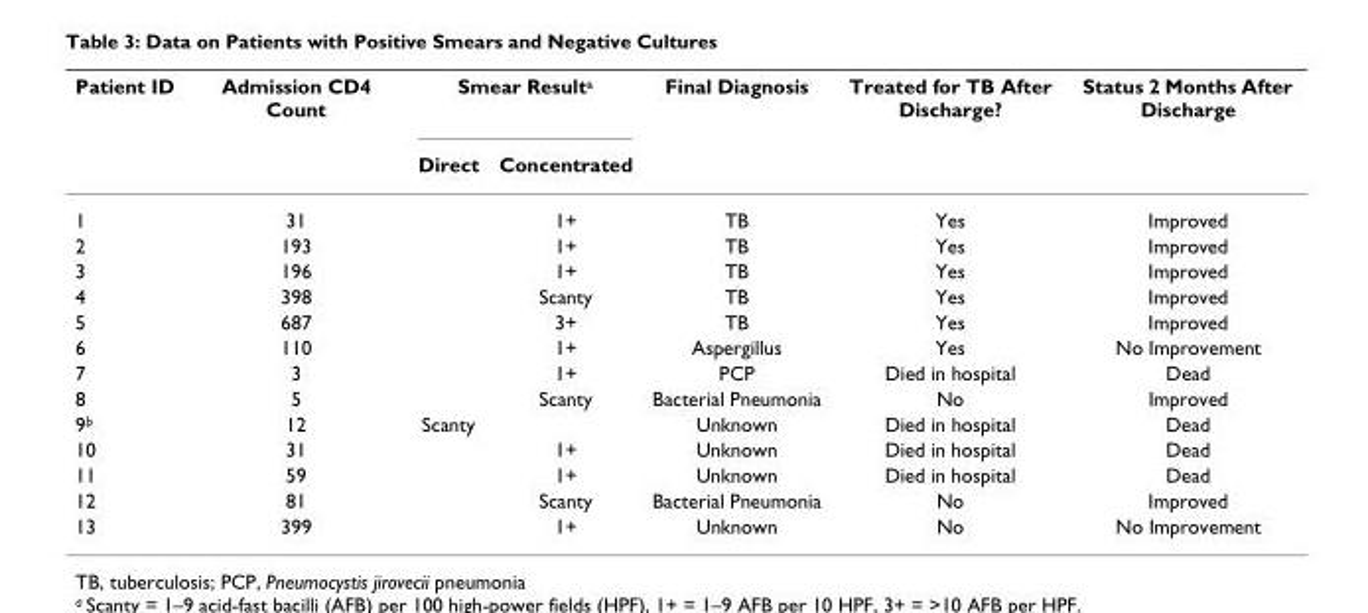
<table><thead><tr><td rowspan="2">Patient ID</td><td rowspan="2">Admission CD4 Count</td><td colspan="2">Smear Result<sup>a</sup></td><td rowspan="2">Final Diagnosis</td><td rowspan="2">Treated for TB After Discharge?</td><td rowspan="2">Status 2 Months After Discharge</td></tr><tr><td>Direct</td><td>Concentrated</td></tr></thead><tbody><tr><td>1</td><td>31</td><td></td><td>1+</td><td>TB</td><td>Yes</td><td>Improved</td></tr><tr><td>2</td><td>193</td><td></td><td>1+</td><td>TB</td><td>Yes</td><td>Improved</td></tr><tr><td>3</td><td>196</td><td></td><td>1+</td><td>TB</td><td>Yes</td><td>Improved</td></tr><tr><td>4</td><td>398</td><td></td><td>Scanty</td><td>TB</td><td>Yes</td><td>Improved</td></tr><tr><td>5</td><td>687</td><td></td><td>3+</td><td>TB</td><td>Yes</td><td>Improved</td></tr><tr><td>6</td><td>110</td><td></td><td>1+</td><td>Aspergillus</td><td>Yes</td><td>No Improvement</td></tr><tr><td>7</td><td>3</td><td></td><td>1+</td><td>PCP</td><td>Died in hospital</td><td>Dead</td></tr><tr><td>8</td><td>5</td><td></td><td>Scanty</td><td>Bacterial Pneumonia</td><td>No</td><td>Improved</td></tr><tr><td>9<sup>b</sup></td><td>12</td><td>Scanty</td><td></td><td>Unknown</td><td>Died in hospital</td><td>Dead</td></tr><tr><td>10</td><td>31</td><td></td><td>1+</td><td>Unknown</td><td>Died in hospital</td><td>Dead</td></tr><tr><td>11</td><td>59</td><td></td><td>1+</td><td>Unknown</td><td>Died in hospital</td><td>Dead</td></tr><tr><td>12</td><td>81</td><td></td><td>Scanty</td><td>Bacterial Pneumonia</td><td>No</td><td>Improved</td></tr><tr><td>13</td><td>399</td><td></td><td>1+</td><td>Unknown</td><td>No</td><td>No Improvement</td></tr></tbody></table>